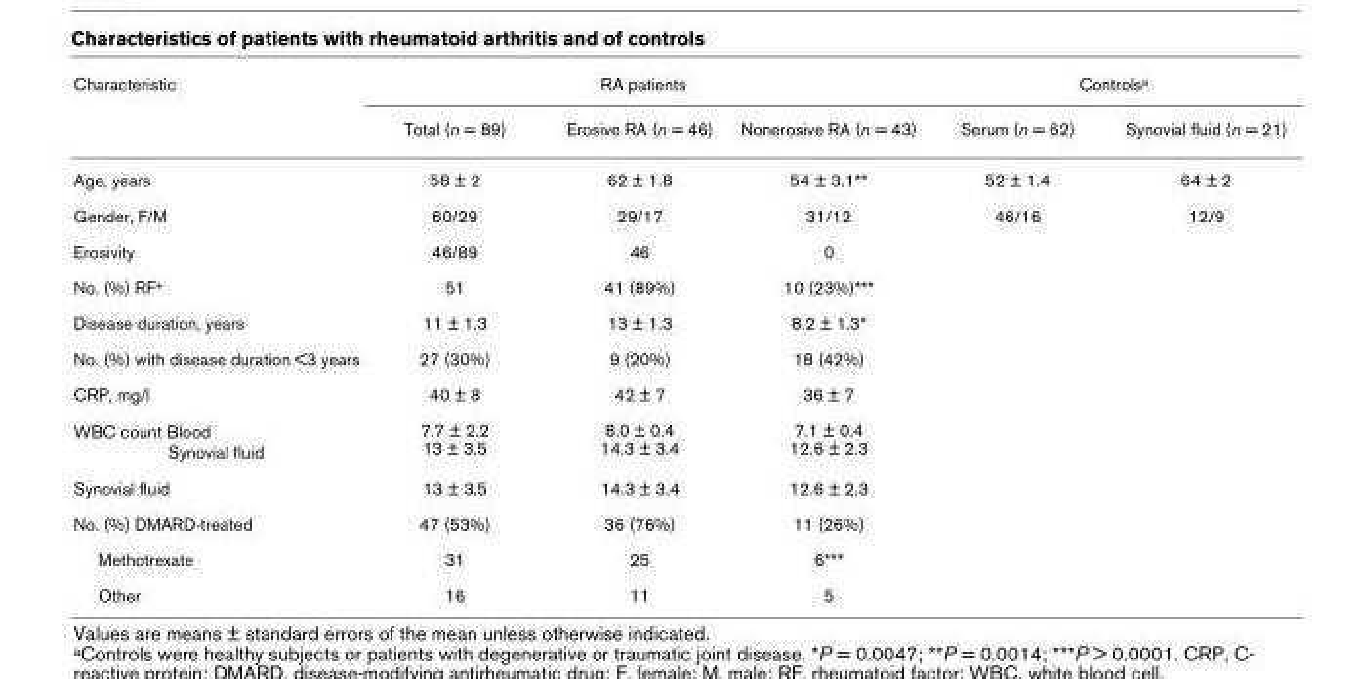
<table><thead><tr><td rowspan="2">Characteristic</td><td colspan="3">RA patients</td><td colspan="2">Controlsa</td></tr><tr><td>Total (n = 89)</td><td>Erosive RA (n = 46)</td><td>Nonerosive RA (n = 43)</td><td>Serum (n = 62)</td><td>Synovial fluid (n = 21)</td></tr></thead><tbody><tr><td>Age, years</td><td>58 ± 2</td><td>62 ± 1.8</td><td>54 ± 3.1**</td><td>52 ± 1.4</td><td>64 ± 2</td></tr><tr><td>Gender, F/M</td><td>60/29</td><td>29/17</td><td>31/12</td><td>46/16</td><td>12/9</td></tr><tr><td>Erosivity</td><td>46/89</td><td>46</td><td>0</td><td></td><td></td></tr><tr><td>No. (%) RF+</td><td>51</td><td>41 (89%)</td><td>10 (23%)***</td><td></td><td></td></tr><tr><td>Disease duration, years</td><td>11 ± 1.3</td><td>13 ± 1.3</td><td>8.2 ± 1.3*</td><td></td><td></td></tr><tr><td>No. (%) with disease duration &lt;3 years</td><td>27 (30%)</td><td>9 (20%)</td><td>18 (42%)</td><td></td><td></td></tr><tr><td>CRP, mg/l</td><td>40 ± 8</td><td>42 ± 7</td><td>36 ± 7</td><td></td><td></td></tr><tr><td>WBC count Blood Synovial fluid</td><td>7.7 ± 2.2 13 ± 3.5</td><td>8.0 ± 0.4 14.3 ± 3.4</td><td>7.1 ± 0.4 12.6 ± 2.3</td><td></td><td></td></tr><tr><td>Synovial fluid</td><td>13 ± 3.5</td><td>14.3 ± 3.4</td><td>12.6 ± 2.3</td><td></td><td></td></tr><tr><td>No. (%) DMARD-treated</td><td>47 (53%)</td><td>36 (76%)</td><td>11 (26%)</td><td></td><td></td></tr><tr><td>Methotrexate</td><td>31</td><td>25</td><td>6***</td><td></td><td></td></tr><tr><td>Other</td><td>16</td><td>11</td><td>5</td><td></td><td></td></tr></tbody></table>